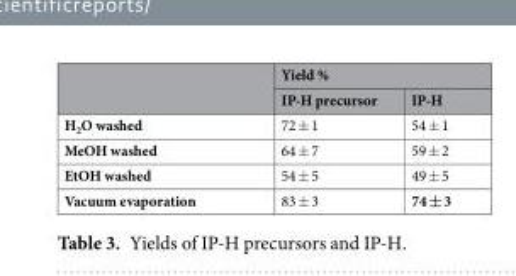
<table><thead><tr><td rowspan="2"></td><td colspan="2">Yield %</td></tr><tr><td>IP-H precursor</td><td>IP-H</td></tr></thead><tbody><tr><td>H<sub>2</sub>O washed</td><td>72 ± 1</td><td>54 ± 1</td></tr><tr><td>MeOH washed</td><td>64 ± 7</td><td>59 ± 2</td></tr><tr><td>EtOH washed</td><td>54 ± 5</td><td>49 ± 5</td></tr><tr><td>Vacuum evaporation</td><td>83 ± 3</td><td>74 ± 3</td></tr></tbody></table>